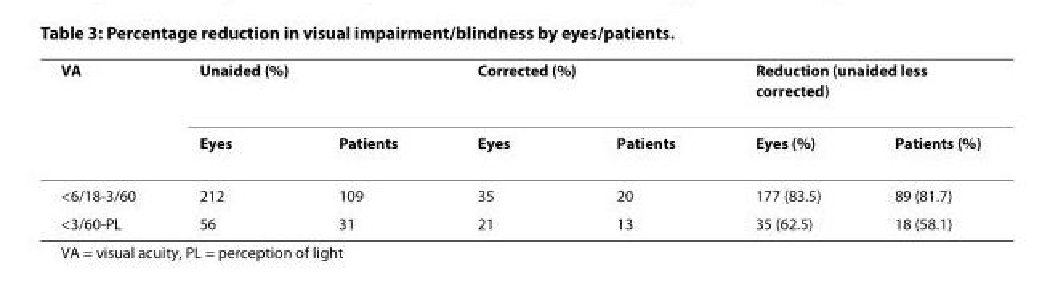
<table><thead><tr><td rowspan="2">VA</td><td colspan="2">Unaided (%)</td><td colspan="2">Corrected (%)</td><td colspan="2">Reduction (unaided less corrected)</td></tr><tr><td>Eyes</td><td>Patients</td><td>Eyes</td><td>Patients</td><td>Eyes (%)</td><td>Patients (%)</td></tr></thead><tbody><tr><td>&lt;6/18-3/60</td><td>212</td><td>109</td><td>35</td><td>20</td><td>177 (83.5)</td><td>89 (81.7)</td></tr><tr><td>&lt;3/60-PL</td><td>56</td><td>31</td><td>21</td><td>13</td><td>35 (62.5)</td><td>18 (58.1)</td></tr></tbody></table>